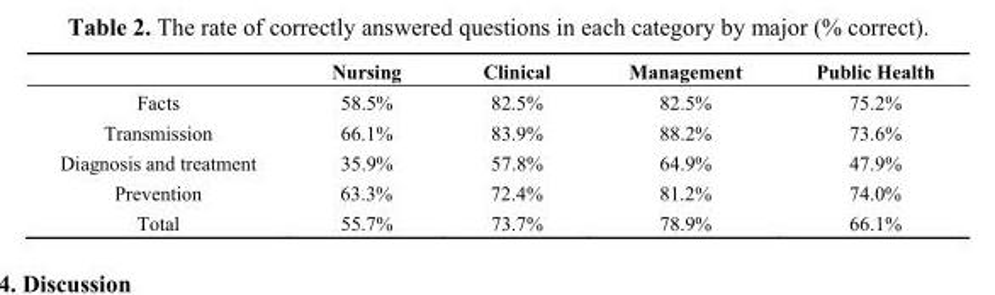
<table><thead><tr><td></td><td>Nursing</td><td>Clinical</td><td>Management</td><td>Public Health</td></tr></thead><tbody><tr><td>Facts</td><td>58.5%</td><td>82.5%</td><td>82.5%</td><td>75.2%</td></tr><tr><td>Transmission</td><td>66.1%</td><td>83.9%</td><td>88.2%</td><td>73.6%</td></tr><tr><td>Diagnosis and treatment</td><td>35.9%</td><td>57.8%</td><td>64.9%</td><td>47.9%</td></tr><tr><td>Prevention</td><td>63.3%</td><td>72.4%</td><td>81.2%</td><td>74.0%</td></tr><tr><td>Total</td><td>55.7%</td><td>73.7%</td><td>78.9%</td><td>66.1%</td></tr></tbody></table>